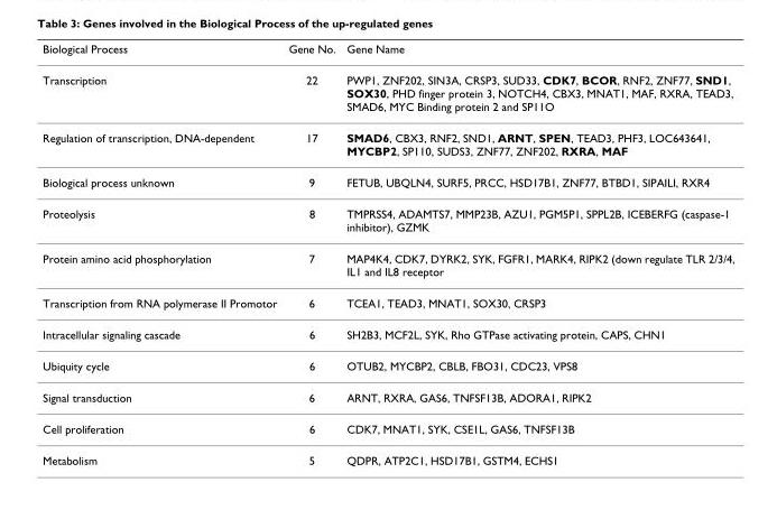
<table><thead><tr><td>Biological Process</td><td>Gene No.</td><td>Gene Name</td></tr></thead><tbody><tr><td>Transcription</td><td>22</td><td>PWP1, ZNF202, SIN3A, CRSP3, SUD33, CDK7, BCOR, RNF2, ZNF77, SND1, SOX30, PHD finger protein 3, NOTCH4, CBX3, MNAT1, MAF, RXRA, TEAD3, SMAD6, MYC Binding protein 2 and SP11O</td></tr><tr><td>Regulation of transcription, DNA-dependent</td><td>17</td><td>SMAD6, CBX3, RNF2, SND1, ARNT, SPEN, TEAD3, PHF3, LOC643641, MYCBP2, SP110, SUDS3, ZNF77, ZNF202, RXRA, MAF</td></tr><tr><td>Biological process unknown</td><td>9</td><td>FETUB, UBQLN4, SURF5, PRCC, HSD17B1, ZNF77, BTBD1, SIPAILI, RXR4</td></tr><tr><td>Proteolysis</td><td>8</td><td>TMPRSS4, ADAMTS7, MMP23B, AZU1, PGM5P1, SPPL2B, ICEBERFG (caspase-1 inhibitor), GZMK</td></tr><tr><td>Protein amino acid phosphorylation</td><td>7</td><td>MAP4K4, CDK7, DYRK2, SYK, FGFR1, MARK4, RIPK2 (down regulate TLR 2/3/4, IL1 and IL8 receptor</td></tr><tr><td>Transcription from RNA polymerase II Promotor</td><td>6</td><td>TCEA1, TEAD3, MNAT1, SOX30, CRSP3</td></tr><tr><td>Intracellular signaling cascade</td><td>6</td><td>SH2B3, MCF2L, SYK, Rho GTPase activating protein, CAPS, CHN1</td></tr><tr><td>Ubiquity cycle</td><td>6</td><td>OTUB2, MYCBP2, CBLB, FBO31, CDC23, VPS8</td></tr><tr><td>Signal transduction</td><td>6</td><td>ARNT, RXRA, GAS6, TNFSF13B, ADORA1, RIPK2</td></tr><tr><td>Cell proliferation</td><td>6</td><td>CDK7, MNAT1, SYK, CSE1L, GAS6, TNFSF13B</td></tr><tr><td>Metabolism</td><td>5</td><td>QDPR, ATP2C1, HSD17B1, GSTM4, ECHS1</td></tr></tbody></table>